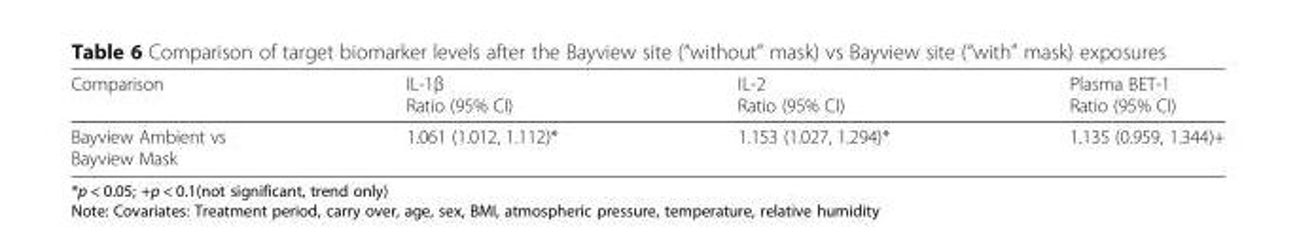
<table><thead><tr><td>Comparison</td><td>IL-1β Ratio (95% CI)</td><td>IL-2 Ratio (95% CI)</td><td>Plasma BET-1 Ratio (95% CI)</td></tr></thead><tbody><tr><td>Bayview Ambient vs Bayview Mask</td><td>1.061 (1.012, 1.112)*</td><td>1.153 (1.027, 1.294)*</td><td>1.135 (0.959, 1.344)+</td></tr></tbody></table>